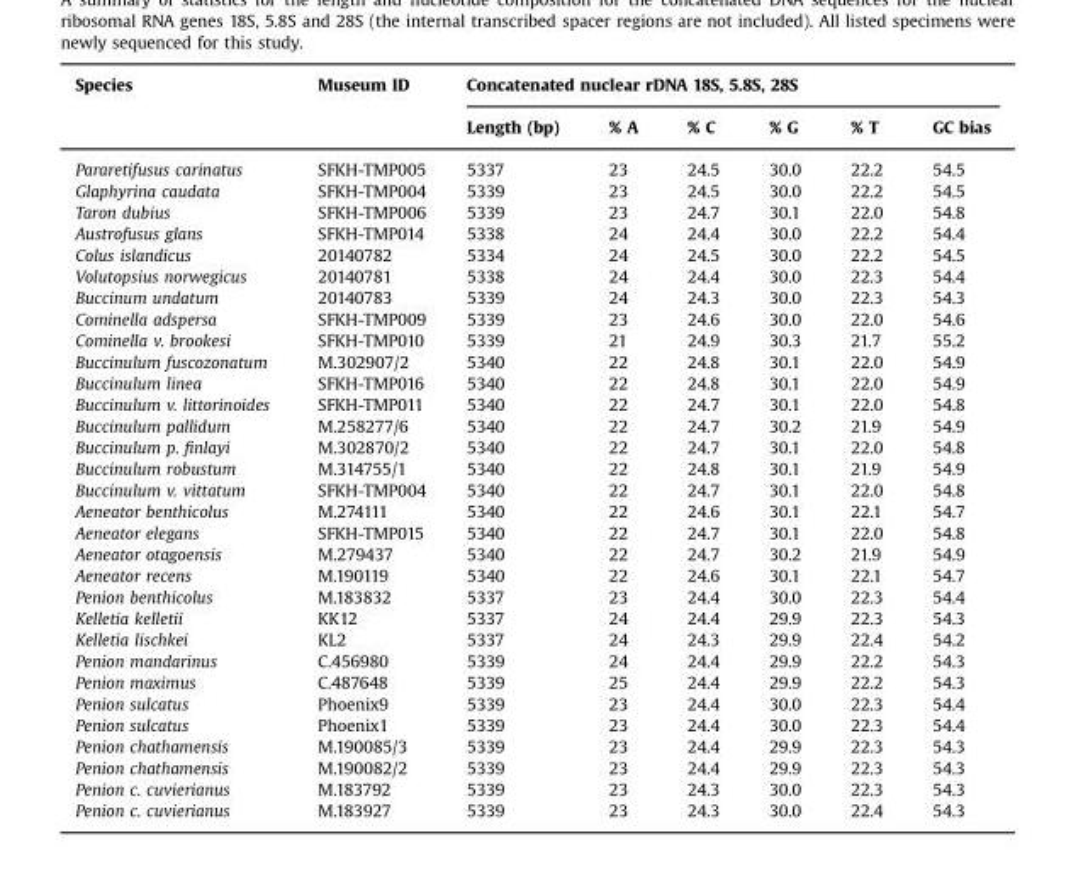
<table><thead><tr><td rowspan="2">Species</td><td rowspan="2">Museum ID</td><td colspan="6">Concatenated nuclear rDNA 18S, 5.8S, 28S</td></tr><tr><td>Length (bp)</td><td>% A</td><td>% C</td><td>% G</td><td>% T</td><td>GC bias</td></tr></thead><tbody><tr><td>Pararetifusus carinatus</td><td>SFKH-TMP005</td><td>5337</td><td>23</td><td>24.5</td><td>30.0</td><td>22.2</td><td>54.5</td></tr><tr><td>Glaphyrina caudata</td><td>SFKH-TMP004</td><td>5339</td><td>23</td><td>24.5</td><td>30.0</td><td>22.2</td><td>54.5</td></tr><tr><td>Taron dubius</td><td>SFKH-TMP006</td><td>5339</td><td>23</td><td>24.7</td><td>30.1</td><td>22.0</td><td>54.8</td></tr><tr><td>Austrofusus glans</td><td>SFKH-TMP014</td><td>5338</td><td>24</td><td>24.4</td><td>30.0</td><td>22.2</td><td>54.4</td></tr><tr><td>Colus islandicus</td><td>20140782</td><td>5334</td><td>24</td><td>24.5</td><td>30.0</td><td>22.2</td><td>54.5</td></tr><tr><td>Volutopsius norwegicus</td><td>20140781</td><td>5338</td><td>24</td><td>24.4</td><td>30.0</td><td>22.3</td><td>54.4</td></tr><tr><td>Buccinum undatum</td><td>20140783</td><td>5339</td><td>24</td><td>24.3</td><td>30.0</td><td>22.3</td><td>54.3</td></tr><tr><td>Cominella adspersa</td><td>SFKH-TMP009</td><td>5339</td><td>23</td><td>24.6</td><td>30.0</td><td>22.0</td><td>54.6</td></tr><tr><td>Cominella v. brookesi</td><td>SFKH-TMP010</td><td>5339</td><td>21</td><td>24.9</td><td>30.3</td><td>21.7</td><td>55.2</td></tr><tr><td>Buccinulum fuscozonatum</td><td>M.302907/2</td><td>5340</td><td>22</td><td>24.8</td><td>30.1</td><td>22.0</td><td>54.9</td></tr><tr><td>Buccinulum linea</td><td>SFKH-TMP016</td><td>5340</td><td>22</td><td>24.8</td><td>30.1</td><td>22.0</td><td>54.9</td></tr><tr><td>Buccinulum v. littorinoides</td><td>SFKH-TMP011</td><td>5340</td><td>22</td><td>24.7</td><td>30.1</td><td>22.0</td><td>54.8</td></tr><tr><td>Buccinulum pallidum</td><td>M.258277/6</td><td>5340</td><td>22</td><td>24.7</td><td>30.2</td><td>21.9</td><td>54.9</td></tr><tr><td>Buccinulum p. finlayi</td><td>M.302870/2</td><td>5340</td><td>22</td><td>24.7</td><td>30.1</td><td>22.0</td><td>54.8</td></tr><tr><td>Buccinulum robustum</td><td>M.314755/1</td><td>5340</td><td>22</td><td>24.8</td><td>30.1</td><td>21.9</td><td>54.9</td></tr><tr><td>Buccinulum v. vittatum</td><td>SFKH-TMP004</td><td>5340</td><td>22</td><td>24.7</td><td>30.1</td><td>22.0</td><td>54.8</td></tr><tr><td>Aeneator benthicolus</td><td>M.274111</td><td>5340</td><td>22</td><td>24.6</td><td>30.1</td><td>22.1</td><td>54.7</td></tr><tr><td>Aeneator elegans</td><td>SFKH-TMP015</td><td>5340</td><td>22</td><td>24.7</td><td>30.1</td><td>22.0</td><td>54.8</td></tr><tr><td>Aeneator otagoensis</td><td>M.279437</td><td>5340</td><td>22</td><td>24.7</td><td>30.2</td><td>21.9</td><td>54.9</td></tr><tr><td>Aeneator recens</td><td>M.190119</td><td>5340</td><td>22</td><td>24.6</td><td>30.1</td><td>22.1</td><td>54.7</td></tr><tr><td>Penion benthicolus</td><td>M.183832</td><td>5337</td><td>23</td><td>24.4</td><td>30.0</td><td>22.3</td><td>54.4</td></tr><tr><td>Kelletia kelletii</td><td>KK12</td><td>5337</td><td>24</td><td>24.4</td><td>29.9</td><td>22.3</td><td>54.3</td></tr><tr><td>Kelletia lischkei</td><td>KL2</td><td>5337</td><td>24</td><td>24.3</td><td>29.9</td><td>22.4</td><td>54.2</td></tr><tr><td>Penion mandarinus</td><td>C.456980</td><td>5339</td><td>24</td><td>24.4</td><td>29.9</td><td>22.2</td><td>54.3</td></tr><tr><td>Penion maximus</td><td>C.487648</td><td>5339</td><td>25</td><td>24.4</td><td>29.9</td><td>22.2</td><td>54.3</td></tr><tr><td>Penion sulcatus</td><td>Phoenix9</td><td>5339</td><td>23</td><td>24.4</td><td>30.0</td><td>22.3</td><td>54.4</td></tr><tr><td>Penion sulcatus</td><td>Phoenix1</td><td>5339</td><td>23</td><td>24.4</td><td>30.0</td><td>22.3</td><td>54.4</td></tr><tr><td>Penion chathamensis</td><td>M.190085/3</td><td>5339</td><td>23</td><td>24.4</td><td>29.9</td><td>22.3</td><td>54.3</td></tr><tr><td>Penion chathamensis</td><td>M.190082/2</td><td>5339</td><td>23</td><td>24.4</td><td>29.9</td><td>22.3</td><td>54.3</td></tr><tr><td>Penion c. cuvierianus</td><td>M.183792</td><td>5339</td><td>23</td><td>24.3</td><td>30.0</td><td>22.3</td><td>54.3</td></tr><tr><td>Penion c. cuvierianus</td><td>M.183927</td><td>5339</td><td>23</td><td>24.3</td><td>30.0</td><td>22.4</td><td>54.3</td></tr></tbody></table>